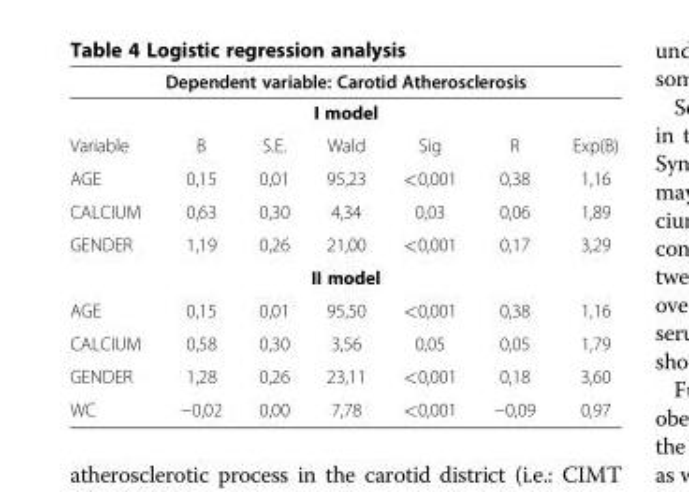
<table><thead><tr><td rowspan="2" colspan="7">Dependent variable: Carotid Atherosclerosis I model</td></tr><tr></tr><tr><td>Variable</td><td>B</td><td>S.E.</td><td>Wald</td><td>Sig</td><td>R</td><td>Exp(B)</td></tr></thead><tbody><tr><td>AGE</td><td>0,15</td><td>0,01</td><td>95,23</td><td>&lt;0,001</td><td>0,38</td><td>1,16</td></tr><tr><td>CALCIUM</td><td>0,63</td><td>0,30</td><td>4,34</td><td>0,03</td><td>0,06</td><td>1,89</td></tr><tr><td>GENDER</td><td>1,19</td><td>0,26</td><td>21,00</td><td>&lt;0,001</td><td>0,17</td><td>3,29</td></tr><tr><td colspan="7">II model</td></tr><tr><td>AGE</td><td>0,15</td><td>0,01</td><td>95,50</td><td>&lt;0,001</td><td>0,38</td><td>1,16</td></tr><tr><td>CALCIUM</td><td>0,58</td><td>0,30</td><td>3,56</td><td>0,05</td><td>0,05</td><td>1,79</td></tr><tr><td>GENDER</td><td>1,28</td><td>0,26</td><td>23,11</td><td>&lt;0,001</td><td>0,18</td><td>3,60</td></tr><tr><td>WC</td><td>−0,02</td><td>0,00</td><td>7,78</td><td>&lt;0,001</td><td>−0,09</td><td>0,97</td></tr></tbody></table>